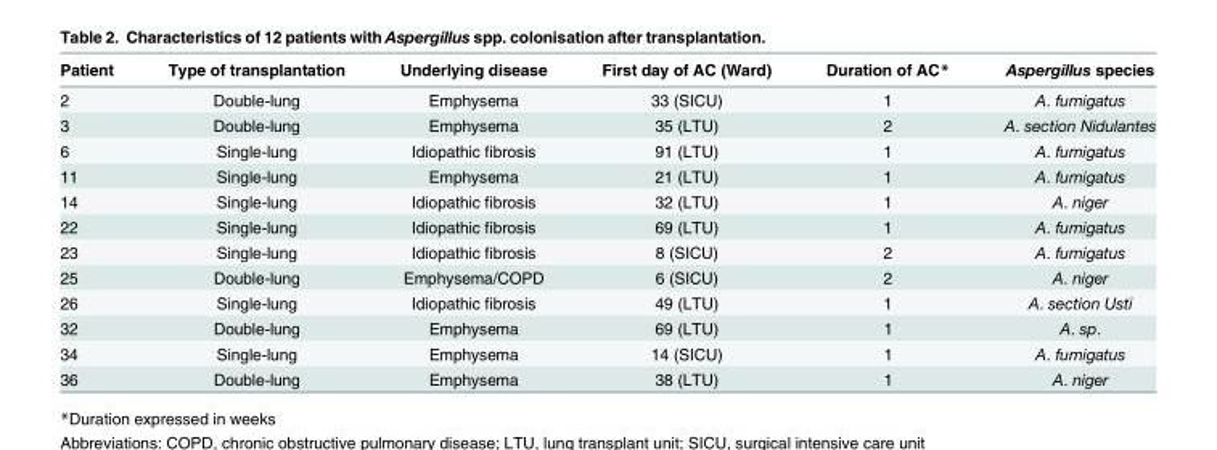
<table><thead><tr><td>Patient</td><td>Type of transplantation</td><td>Underlying disease</td><td>First day of AC (Ward)</td><td>Duration of AC*</td><td>Aspergillus species</td></tr></thead><tbody><tr><td>2</td><td>Double-lung</td><td>Emphysema</td><td>33 (SICU)</td><td>1</td><td>A. fumigatus</td></tr><tr><td>3</td><td>Double-lung</td><td>Emphysema</td><td>35 (LTU)</td><td>2</td><td>A. section Nidulantes</td></tr><tr><td>6</td><td>Single-lung</td><td>Idiopathic fibrosis</td><td>91 (LTU)</td><td>1</td><td>A. fumigatus</td></tr><tr><td>11</td><td>Single-lung</td><td>Emphysema</td><td>21 (LTU)</td><td>1</td><td>A. fumigatus</td></tr><tr><td>14</td><td>Single-lung</td><td>Idiopathic fibrosis</td><td>32 (LTU)</td><td>1</td><td>A. niger</td></tr><tr><td>22</td><td>Single-lung</td><td>Idiopathic fibrosis</td><td>69 (LTU)</td><td>1</td><td>A. fumigatus</td></tr><tr><td>23</td><td>Single-lung</td><td>Idiopathic fibrosis</td><td>8 (SICU)</td><td>2</td><td>A. fumigatus</td></tr><tr><td>25</td><td>Double-lung</td><td>Emphysema/COPD</td><td>6 (SICU)</td><td>2</td><td>A. niger</td></tr><tr><td>26</td><td>Single-lung</td><td>Idiopathic fibrosis</td><td>49 (LTU)</td><td>1</td><td>A. section Usti</td></tr><tr><td>32</td><td>Double-lung</td><td>Emphysema</td><td>69 (LTU)</td><td>1</td><td>A. sp.</td></tr><tr><td>34</td><td>Single-lung</td><td>Emphysema</td><td>14 (SICU)</td><td>1</td><td>A. fumigatus</td></tr><tr><td>36</td><td>Double-lung</td><td>Emphysema</td><td>38 (LTU)</td><td>1</td><td>A. niger</td></tr></tbody></table>